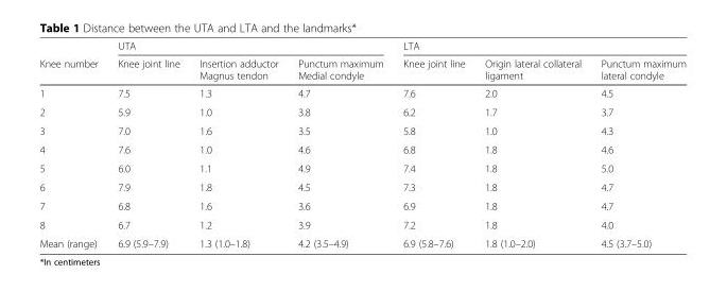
<table><thead><tr><td rowspan="2">Knee number</td><td colspan="3">UTA</td><td colspan="3">LTA</td></tr><tr><td>Knee joint line</td><td>Insertion adductor Magnus tendon</td><td>Punctum maximum Medial condyle</td><td>Knee joint line</td><td>Origin lateral collateral ligament</td><td>Punctum maximum lateral condyle</td></tr></thead><tbody><tr><td>1</td><td>7.5</td><td>1.3</td><td>4.7</td><td>7.6</td><td>2.0</td><td>4.5</td></tr><tr><td>2</td><td>5.9</td><td>1.0</td><td>3.8</td><td>6.2</td><td>1.7</td><td>3.7</td></tr><tr><td>3</td><td>7.0</td><td>1.6</td><td>3.5</td><td>5.8</td><td>1.0</td><td>4.3</td></tr><tr><td>4</td><td>7.6</td><td>1.0</td><td>4.6</td><td>6.8</td><td>1.8</td><td>4.6</td></tr><tr><td>5</td><td>6.0</td><td>1.1</td><td>4.9</td><td>7.4</td><td>1.8</td><td>5.0</td></tr><tr><td>6</td><td>7.9</td><td>1.8</td><td>4.5</td><td>7.3</td><td>1.8</td><td>4.7</td></tr><tr><td>7</td><td>6.8</td><td>1.6</td><td>3.6</td><td>6.9</td><td>1.8</td><td>4.7</td></tr><tr><td>8</td><td>6.7</td><td>1.2</td><td>3.9</td><td>7.2</td><td>1.8</td><td>4.0</td></tr><tr><td>Mean (range)</td><td>6.9 (5.9–7.9)</td><td>1.3 (1.0–1.8)</td><td>4.2 (3.5–4.9)</td><td>6.9 (5.8–7.6)</td><td>1.8 (1.0–2.0)</td><td>4.5 (3.7–5.0)</td></tr></tbody></table>